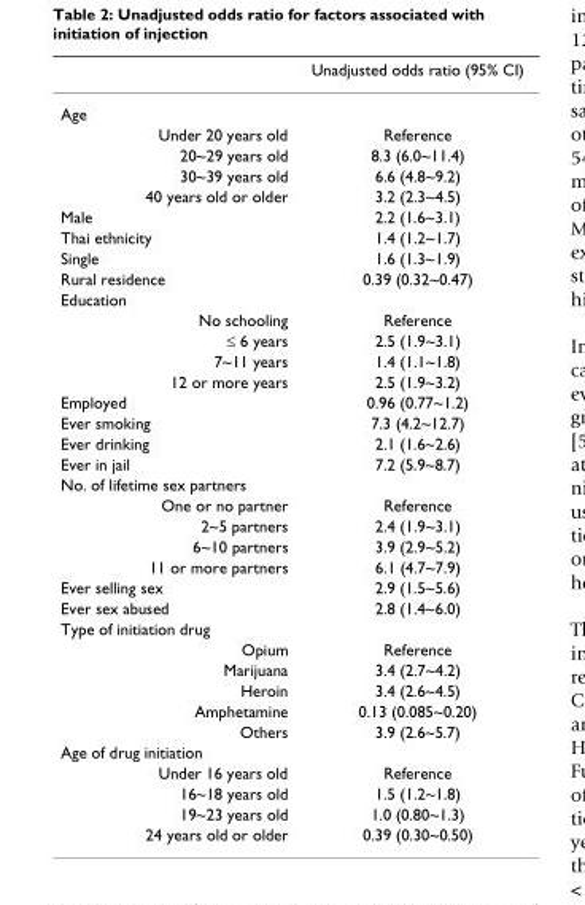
<table><thead><tr><td></td><td>Unadjusted odds ratio (95% CI)</td></tr></thead><tbody><tr><td colspan="2">Age</td></tr><tr><td>Under 20 years old</td><td>Reference</td></tr><tr><td>20~29 years old</td><td>8.3 (6.0~11.4)</td></tr><tr><td>30~39 years old</td><td>6.6 (4.8~9.2)</td></tr><tr><td>40 years old or older</td><td>3.2 (2.3~4.5)</td></tr><tr><td>Male</td><td>2.2 (1.6~3.1)</td></tr><tr><td>Thai ethnicity</td><td>1.4 (1.2~1.7)</td></tr><tr><td>Single</td><td>1.6 (1.3~1.9)</td></tr><tr><td>Rural residence</td><td>0.39 (0.32~0.47)</td></tr><tr><td colspan="2">Education</td></tr><tr><td>No schooling</td><td>Reference</td></tr><tr><td>≤ 6 years</td><td>2.5 (1.9~3.1)</td></tr><tr><td>7~11 years</td><td>1.4 (1.1~1.8)</td></tr><tr><td>12 or more years</td><td>2.5 (1.9~3.2)</td></tr><tr><td>Employed</td><td>0.96 (0.77~1.2)</td></tr><tr><td>Ever smoking</td><td>7.3 (4.2~12.7)</td></tr><tr><td>Ever drinking</td><td>2.1 (1.6~2.6)</td></tr><tr><td>Ever in jail</td><td>7.2 (5.9~8.7)</td></tr><tr><td colspan="2">No. of lifetime sex partners</td></tr><tr><td>One or no partner</td><td>Reference</td></tr><tr><td>2~5 partners</td><td>2.4 (1.9~3.1)</td></tr><tr><td>6~10 partners</td><td>3.9 (2.9~5.2)</td></tr><tr><td>11 or more partners</td><td>6.1 (4.7~7.9)</td></tr><tr><td>Ever selling sex</td><td>2.9 (1.5~5.6)</td></tr><tr><td>Ever sex abused</td><td>2.8 (1.4~6.0)</td></tr><tr><td colspan="2">Type of initiation drug</td></tr><tr><td>Opium</td><td>Reference</td></tr><tr><td>Marijuana</td><td>3.4 (2.7~4.2)</td></tr><tr><td>Heroin</td><td>3.4 (2.6~4.5)</td></tr><tr><td>Amphetamine</td><td>0.13 (0.085~0.20)</td></tr><tr><td>Others</td><td>3.9 (2.6~5.7)</td></tr><tr><td colspan="2">Age of drug initiation</td></tr><tr><td>Under 16 years old</td><td>Reference</td></tr><tr><td>16~18 years old</td><td>1.5 (1.2~1.8)</td></tr><tr><td>19~23 years old</td><td>1.0 (0.80~1.3)</td></tr><tr><td>24 years old or older</td><td>0.39 (0.30~0.50)</td></tr></tbody></table>